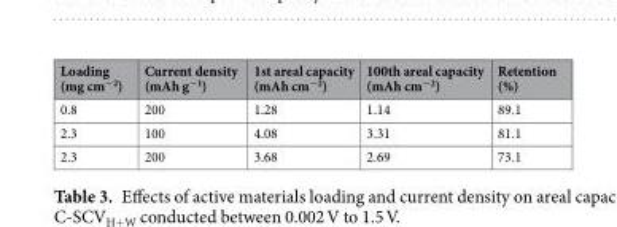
<table><thead><tr><td>Loading (mg cm<sup>−2</sup>)</td><td>Current density (mAh g<sup>−1</sup>)</td><td>1st areal capacity (mAh cm<sup>−2</sup>)</td><td>100th areal capacity (mAh cm<sup>−2</sup>)</td><td>Retention (%)</td></tr></thead><tbody><tr><td>0.8</td><td>200</td><td>1.28</td><td>1.14</td><td>89.1</td></tr><tr><td>2.3</td><td>100</td><td>4.08</td><td>3.31</td><td>81.1</td></tr><tr><td>2.3</td><td>200</td><td>3.68</td><td>2.69</td><td>73.1</td></tr></tbody></table>